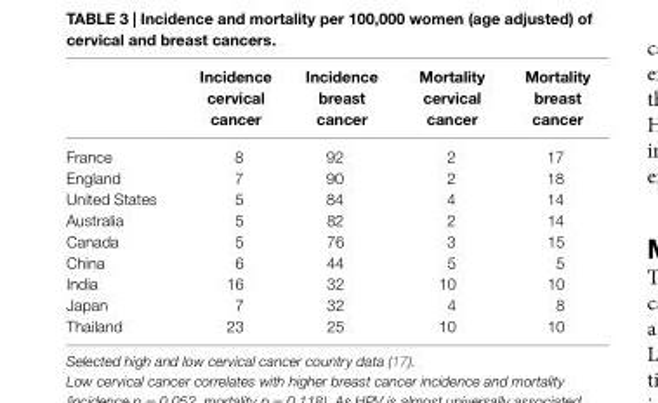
<table><thead><tr><td></td><td>incidence cervical cancer</td><td>incidence breast cancer</td><td>Mortality cervical cancer</td><td>Mortality breast cancer</td></tr></thead><tbody><tr><td>France</td><td>8</td><td>92</td><td>2</td><td>17</td></tr><tr><td>England</td><td>7</td><td>90</td><td>2</td><td>18</td></tr><tr><td>United States</td><td>5</td><td>84</td><td>4</td><td>14</td></tr><tr><td>Australia</td><td>5</td><td>82</td><td>2</td><td>14</td></tr><tr><td>Canada</td><td>5</td><td>76</td><td>3</td><td>15</td></tr><tr><td>China</td><td>6</td><td>44</td><td>5</td><td>5</td></tr><tr><td>India</td><td>16</td><td>32</td><td>10</td><td>10</td></tr><tr><td>Japan</td><td>7</td><td>32</td><td>4</td><td>8</td></tr><tr><td>Thailand</td><td>23</td><td>25</td><td>10</td><td>10</td></tr></tbody></table>